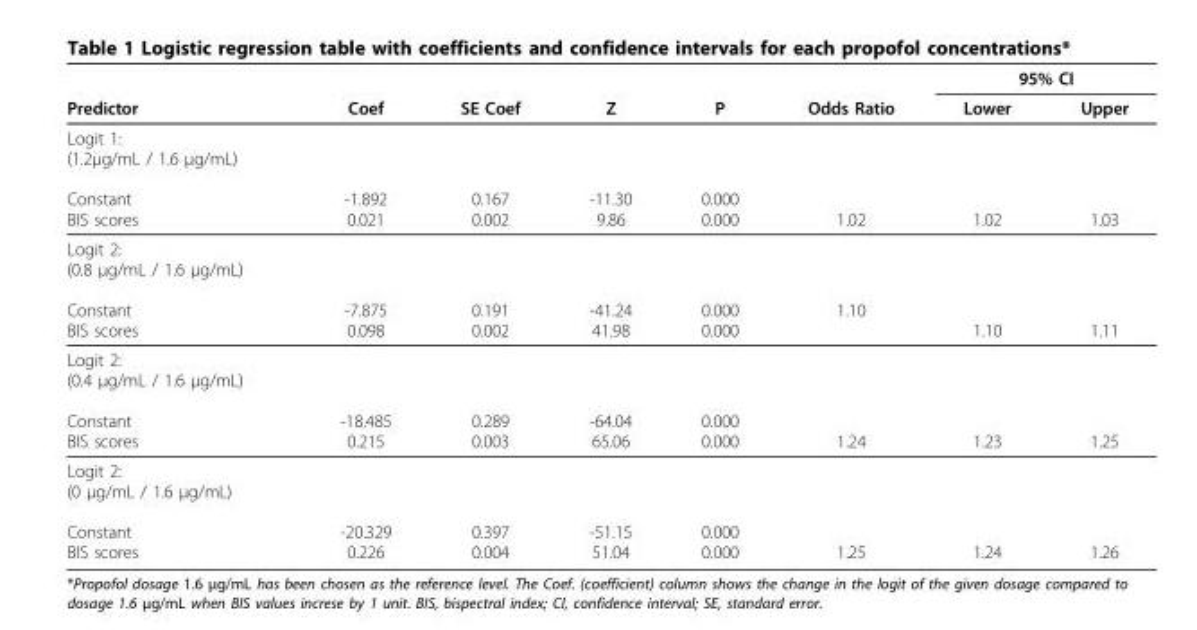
<table><thead><tr><td rowspan="2">Predictor</td><td rowspan="2">Coef</td><td rowspan="2">SE Coef</td><td rowspan="2">Z</td><td rowspan="2">P</td><td rowspan="2">Odds Ratio</td><td colspan="2">95% CI</td></tr><tr><td>Lower</td><td>Upper</td></tr></thead><tbody><tr><td>Logit 1: (1.2µg/mL / 1.6 µg/mL) Constant BIS scores</td><td>-1.892 0.021</td><td>0.167 0.002</td><td>-11.30 9.86</td><td>0.000 0.000</td><td>1.02</td><td>1.02</td><td>1.03</td></tr><tr><td>Logit 2: (0.8 µg/mL / 1.6 µg/mL) Constant BIS scores</td><td>-7.875 0.098</td><td>0.191 0.002</td><td>-41.24 41.98</td><td>0.000 0.000</td><td>1.10</td><td>1.10</td><td>1.11</td></tr><tr><td>Logit 2: (0.4 µg/mL / 1.6 µg/mL) Constant BIS scores</td><td>-18.485 0.215</td><td>0.289 0.003</td><td>-64.04 65.06</td><td>0.000 0.000</td><td>1.24</td><td>1.23</td><td>1.25</td></tr><tr><td>Logit 2: (0 µg/mL / 1.6 µg/mL) Constant BIS scores</td><td>-20.329 0.226</td><td>0.397 0.004</td><td>-51.15 51.04</td><td>0.000 0.000</td><td>1.25</td><td>1.24</td><td>1.26</td></tr></tbody></table>